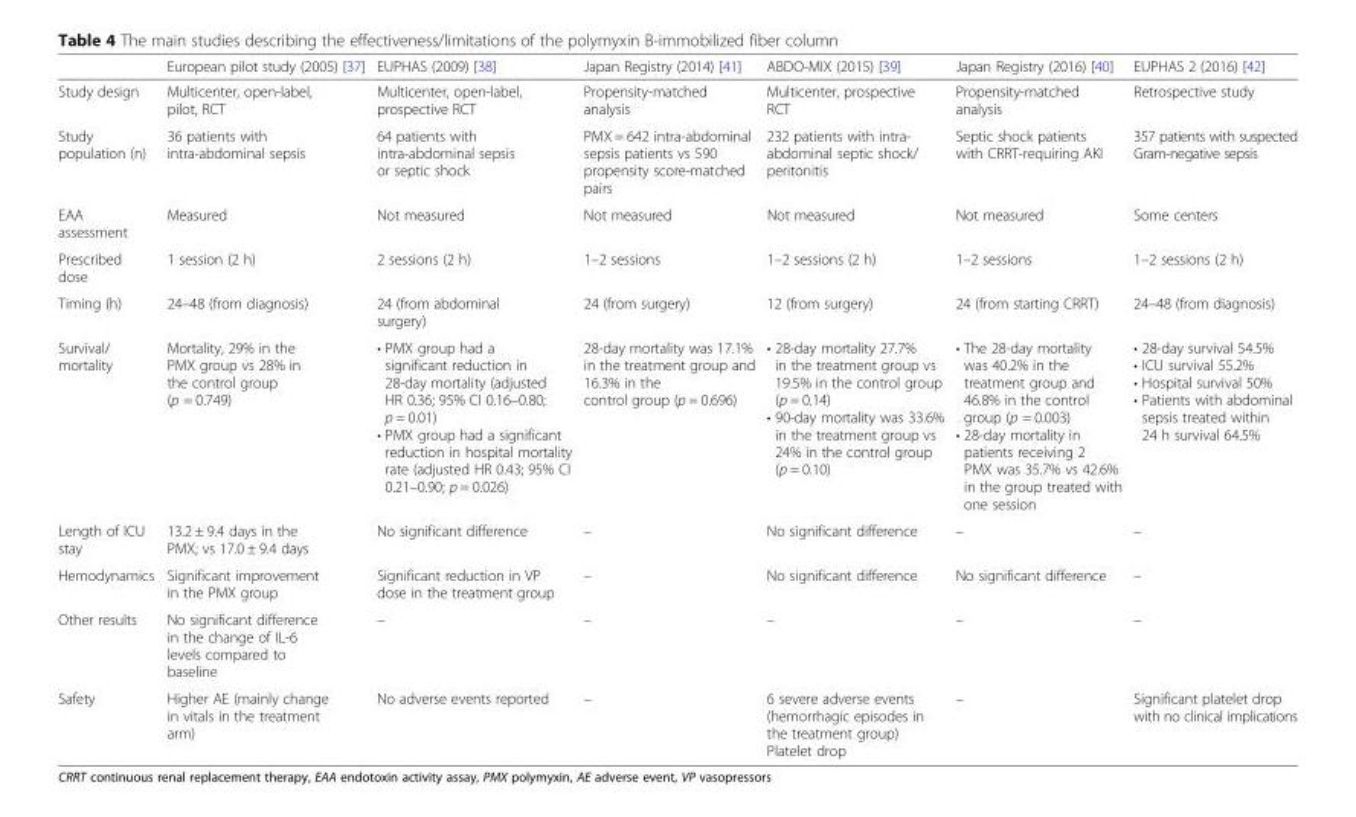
<table><thead><tr><td></td><td>European pilot study (2005) [37]</td><td>EUPHAS (2009) [38]</td><td>Japan Registry (2014) [41]</td><td>ABDO-MIX (2015) [39]</td><td>Japan Registry (2016) [40]</td><td>EUPHAS 2 (2016) [42]</td></tr></thead><tbody><tr><td>Study design</td><td>Multicenter, open-label, pilot, RCT</td><td>Multicenter, open-label, prospective RCT</td><td>Propensity-matched analysis</td><td>Multicenter, prospective RCT</td><td>Propensity-matched analysis</td><td>Retrospective study</td></tr><tr><td>Study population (n)</td><td>36 patients with intra-abdominal sepsis</td><td>64 patients with intra-abdominal sepsis or septic shock</td><td>PMX = 642 intra-abdominal sepsis patients vs 590 propensity score-matched pairs</td><td>232 patients with intra- abdominal septic shock/ peritonitis</td><td>Septic shock patients with CRRT-requiring AKI</td><td>357 patients with suspected Gram-negative sepsis</td></tr><tr><td>EAA assessment</td><td>Measured</td><td>Not measured</td><td>Not measured</td><td>Not measured</td><td>Not measured</td><td>Some centers</td></tr><tr><td>Prescribed dose</td><td>1 session (2 h)</td><td>2 sessions (2 h)</td><td>1–2 sessions</td><td>1–2 sessions (2 h)</td><td>1–2 sessions</td><td>1–2 sessions (2 h)</td></tr><tr><td>Timing (h)</td><td>24–48 (from diagnosis)</td><td>24 (from abdominal surgery)</td><td>24 (from surgery)</td><td>12 (from surgery)</td><td>24 (from starting CRRT)</td><td>24–48 (from diagnosis)</td></tr><tr><td>Survival/ mortality</td><td>Mortality, 29% in the PMX group vs 28% in the control group (p = 0.749)</td><td>• PMX group had a significant reduction in 28-day mortality (adjusted HR 0.36; 95% CI 0.16–0.80; p = 0.01) • PMX group had a significant reduction in hospital mortality rate (adjusted HR 0.43; 95% CI 0.21–0.90; p = 0.026)</td><td>28-day mortality was 17.1% in the treatment group and 16.3% in the control group (p = 0.696)</td><td>• 28-day mortality 27.7% in the treatment group vs 19.5% in the control group (p = 0.14) • 90-day mortality was 33.6% in the treatment group vs 24% in the control group (p = 0.10)</td><td>• The 28-day mortality was 40.2% in the treatment group and 46.8% in the control group (p = 0.003) • 28-day mortality in patients receiving 2 PMX was 35.7% vs 42.6% in the group treated with one session</td><td>• 28-day survival 54.5% • ICU survival 55.2% • Hospital survival 50% • Patients with abdominal sepsis treated within 24 h survival 64.5%</td></tr><tr><td>Length of ICU stay</td><td>13.2 ± 9.4 days in the PMX; vs 17.0 ± 9.4 days</td><td>No significant difference</td><td>–</td><td>No significant difference</td><td>–</td><td>–</td></tr><tr><td>Hemodynamics</td><td>Significant improvement in the PMX group</td><td>Significant reduction in VP dose in the treatment group</td><td>–</td><td>No significant difference</td><td>No significant difference</td><td>–</td></tr><tr><td>Other results</td><td>No significant difference in the change of IL-6 levels compared to baseline</td><td>–</td><td>–</td><td>–</td><td>–</td><td>–</td></tr><tr><td>Safety</td><td>Higher AE (mainly change in vitals in the treatment arm)</td><td>No adverse events reported</td><td>–</td><td>6 severe adverse events (hemorrhagic episodes in the treatment group) Platelet drop</td><td>–</td><td>Significant platelet drop with no clinical implications</td></tr></tbody></table>